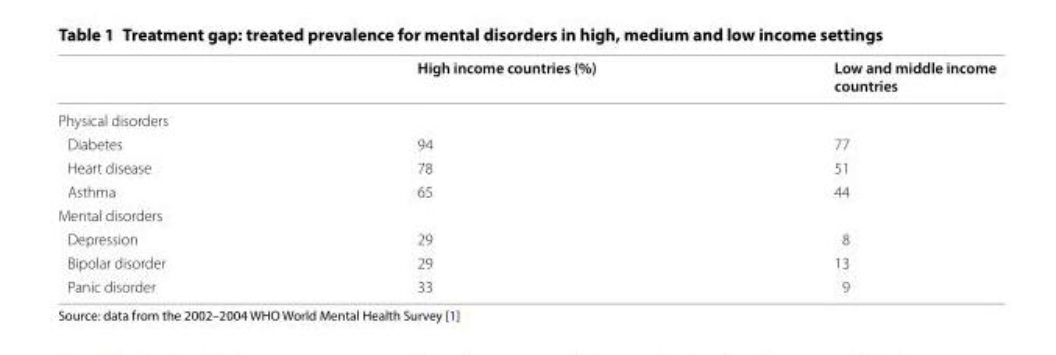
<table><thead><tr><td></td><td>High income countries (%)</td><td>Low and middle income countries</td></tr></thead><tbody><tr><td colspan="3">Physical disorders</td></tr><tr><td>Diabetes</td><td>94</td><td>77</td></tr><tr><td>Heart disease</td><td>78</td><td>51</td></tr><tr><td>Asthma</td><td>65</td><td>44</td></tr><tr><td colspan="3">Mental disorders</td></tr><tr><td>Depression</td><td>29</td><td>8</td></tr><tr><td>Bipolar disorder</td><td>29</td><td>13</td></tr><tr><td>Panic disorder</td><td>33</td><td>9</td></tr></tbody></table>